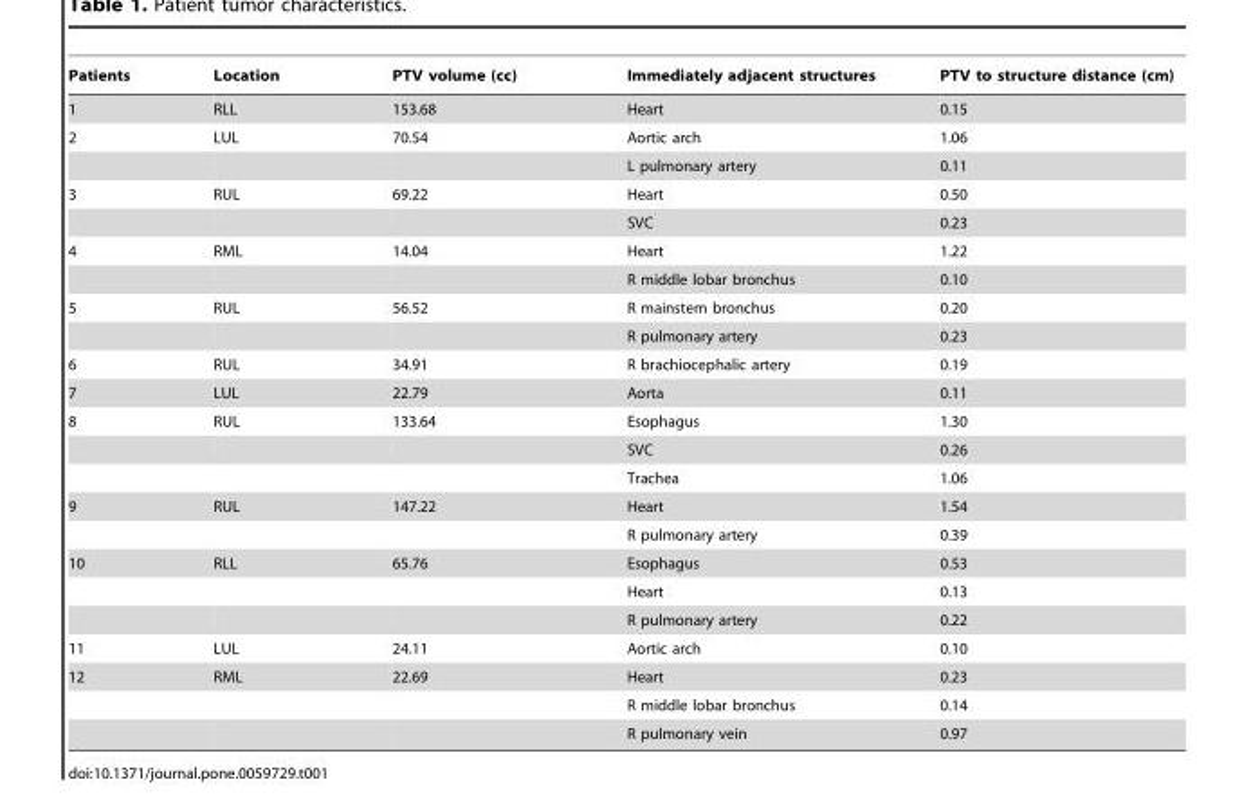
<table><thead><tr><td>Patients</td><td>Location</td><td>PTV volume (cc)</td><td>Immediately adjacent structures</td><td>PTV to structure distance (cm)</td></tr></thead><tbody><tr><td>1</td><td>RLL</td><td>153.68</td><td>Heart</td><td>0.15</td></tr><tr><td rowspan="2">2</td><td>LUL</td><td>70.54</td><td>Aortic arch</td><td>1.06</td></tr><tr><td></td><td></td><td>L pulmonary artery</td><td>0.11</td></tr><tr><td rowspan="2">3</td><td>RUL</td><td>69.22</td><td>Heart</td><td>0.50</td></tr><tr><td></td><td></td><td>SVC</td><td>0.23</td></tr><tr><td rowspan="2">4</td><td>RML</td><td>14.04</td><td>Heart</td><td>1.22</td></tr><tr><td></td><td></td><td>R middle lobar bronchus</td><td>0.10</td></tr><tr><td rowspan="2">5</td><td>RUL</td><td>56.52</td><td>R mainstem bronchus</td><td>0.20</td></tr><tr><td></td><td></td><td>R pulmonary artery</td><td>0.23</td></tr><tr><td>6</td><td>RUL</td><td>34.91</td><td>R brachiocephalic artery</td><td>0.19</td></tr><tr><td>7</td><td>LUL</td><td>22.79</td><td>Aorta</td><td>0.11</td></tr><tr><td rowspan="3">8</td><td>RUL</td><td>133.64</td><td>Esophagus</td><td>1.30</td></tr><tr><td></td><td></td><td>SVC</td><td>0.26</td></tr><tr><td></td><td></td><td>Trachea</td><td>1.06</td></tr><tr><td rowspan="2">9</td><td>RUL</td><td>147.22</td><td>Heart</td><td>1.54</td></tr><tr><td></td><td></td><td>R pulmonary artery</td><td>0.39</td></tr><tr><td rowspan="3">10</td><td>RLL</td><td>65.76</td><td>Esophagus</td><td>0.53</td></tr><tr><td></td><td></td><td>Heart</td><td>0.13</td></tr><tr><td></td><td></td><td>R pulmonary artery</td><td>0.22</td></tr><tr><td>11</td><td>LUL</td><td>24.11</td><td>Aortic arch</td><td>0.10</td></tr><tr><td rowspan="3">12</td><td>RML</td><td>22.69</td><td>Heart</td><td>0.23</td></tr><tr><td></td><td></td><td>R middle lobar bronchus</td><td>0.14</td></tr><tr><td></td><td></td><td>R pulmonary vein</td><td>0.97</td></tr></tbody></table>